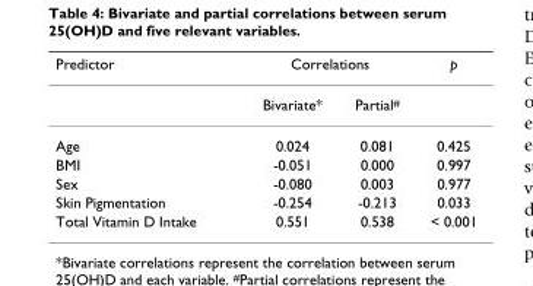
<table><thead><tr><td rowspan="2">Predictor</td><td colspan="2">Correlations</td><td rowspan="2">p</td></tr><tr><td>Bivariate*</td><td>Partial<sup>#</sup></td></tr></thead><tbody><tr><td>Age</td><td>0.024</td><td>0.081</td><td>0.425</td></tr><tr><td>BMI</td><td>-0.051</td><td>0.000</td><td>0.997</td></tr><tr><td>Sex</td><td>-0.080</td><td>0.003</td><td>0.977</td></tr><tr><td>Skin Pigmentation</td><td>-0.254</td><td>-0.213</td><td>0.033</td></tr><tr><td>Total Vitamin D Intake</td><td>0.551</td><td>0.538</td><td>&lt; 0.001</td></tr></tbody></table>